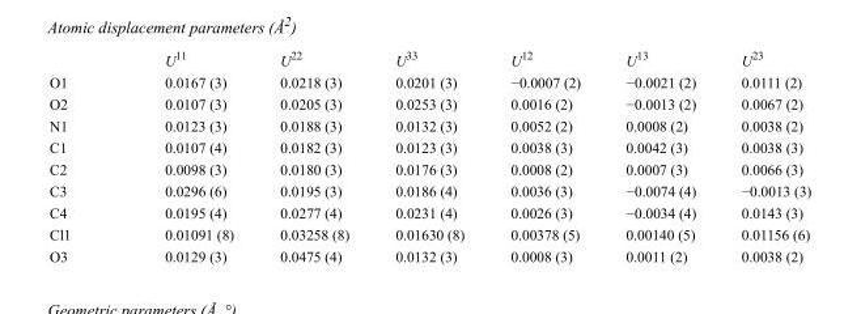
<table><thead><tr><td></td><td>U<sup>11</sup></td><td>U<sup>22</sup></td><td>U<sup>33</sup></td><td>U<sup>12</sup></td><td>U<sup>13</sup></td><td>U<sup>23</sup></td></tr></thead><tbody><tr><td>O1</td><td>0.0167 (3)</td><td>0.0218 (3)</td><td>0.0201 (3)</td><td>−0.0007 (2)</td><td>−0.0021 (2)</td><td>0.0111 (2)</td></tr><tr><td>O2</td><td>0.0107 (3)</td><td>0.0205 (3)</td><td>0.0253 (3)</td><td>0.0016 (2)</td><td>−0.0013 (2)</td><td>0.0067 (2)</td></tr><tr><td>N1</td><td>0.0123 (3)</td><td>0.0188 (3)</td><td>0.0132 (3)</td><td>0.0052 (2)</td><td>0.0008 (2)</td><td>0.0038 (2)</td></tr><tr><td>C1</td><td>0.0107 (4)</td><td>0.0182 (3)</td><td>0.0123 (3)</td><td>0.0038 (3)</td><td>0.0042 (3)</td><td>0.0038 (3)</td></tr><tr><td>C2</td><td>0.0098 (3)</td><td>0.0180 (3)</td><td>0.0176 (3)</td><td>0.0008 (2)</td><td>0.0007 (3)</td><td>0.0066 (3)</td></tr><tr><td>C3</td><td>0.0296 (6)</td><td>0.0195 (3)</td><td>0.0186 (4)</td><td>0.0036 (3)</td><td>−0.0074 (4)</td><td>−0.0013 (3)</td></tr><tr><td>C4</td><td>0.0195 (4)</td><td>0.0277 (4)</td><td>0.0231 (4)</td><td>0.0026 (3)</td><td>−0.0034 (4)</td><td>0.0143 (3)</td></tr><tr><td>Cl1</td><td>0.01091 (8)</td><td>0.03258 (8)</td><td>0.01630 (8)</td><td>0.00378 (5)</td><td>0.00140 (5)</td><td>0.01156 (6)</td></tr><tr><td>O3</td><td>0.0129 (3)</td><td>0.0475 (4)</td><td>0.0132 (3)</td><td>0.0008 (3)</td><td>0.0011 (2)</td><td>0.0038 (2)</td></tr></tbody></table>